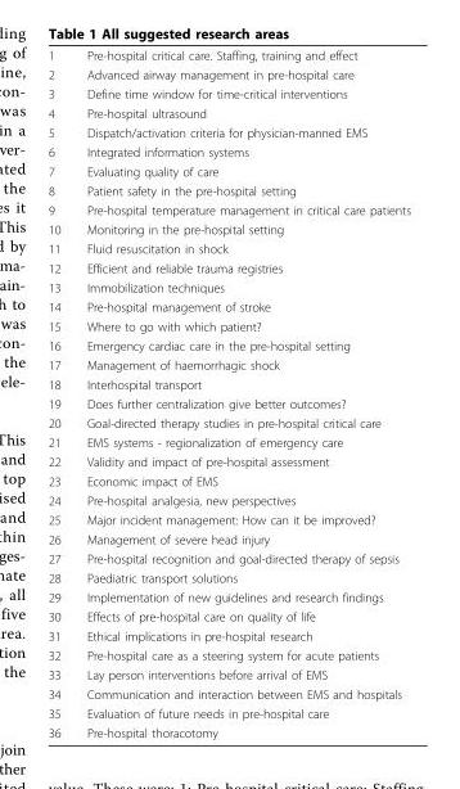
<table><tbody><tr><td>1</td><td>Pre-hospital critical care. Staffing, training and effect</td></tr><tr><td>2</td><td>Advanced airway management in pre-hospital care</td></tr><tr><td>3</td><td>Define time window for time-critical interventions</td></tr><tr><td>4</td><td>Pre-hospital ultrasound</td></tr><tr><td>5</td><td>Dispatch/activation criteria for physician-manned EMS</td></tr><tr><td>6</td><td>Integrated information systems</td></tr><tr><td>7</td><td>Evaluating quality of care</td></tr><tr><td>8</td><td>Patient safety in the pre-hospital setting</td></tr><tr><td>9</td><td>Pre-hospital temperature management in critical care patients</td></tr><tr><td>10</td><td>Monitoring in the pre-hospital setting</td></tr><tr><td>11</td><td>Fluid resuscitation in shock</td></tr><tr><td>12</td><td>Efficient and reliable trauma registries</td></tr><tr><td>13</td><td>Immobilization techniques</td></tr><tr><td>14</td><td>Pre-hospital management of stroke</td></tr><tr><td>15</td><td>Where to go with which patient?</td></tr><tr><td>16</td><td>Emergency cardiac care in the pre-hospital setting</td></tr><tr><td>17</td><td>Management of haemorrhagic shock</td></tr><tr><td>18</td><td>Interhospital transport</td></tr><tr><td>19</td><td>Does further centralization give better outcomes?</td></tr><tr><td>20</td><td>Goal-directed therapy studies in pre-hospital critical care</td></tr><tr><td>21</td><td>EMS systems - regionalization of emergency care</td></tr><tr><td>22</td><td>Validity and impact of pre-hospital assessment</td></tr><tr><td>23</td><td>Economic impact of EMS</td></tr><tr><td>24</td><td>Pre-hospital analgesia, new perspectives</td></tr><tr><td>25</td><td>Major incident management: How can it be improved?</td></tr><tr><td>26</td><td>Management of severe head injury</td></tr><tr><td>27</td><td>Pre-hospital recognition and goal-directed therapy of sepsis</td></tr><tr><td>28</td><td>Paediatric transport solutions</td></tr><tr><td>29</td><td>Implementation of new guidelines and research findings</td></tr><tr><td>30</td><td>Effects of pre-hospital care on quality of life</td></tr><tr><td>31</td><td>Ethical implications in pre-hospital research</td></tr><tr><td>32</td><td>Pre-hospital care as a steering system for acute patients</td></tr><tr><td>33</td><td>Lay person interventions before arrival of EMS</td></tr><tr><td>34</td><td>Communication and interaction between EMS and hospitals</td></tr><tr><td>35</td><td>Evaluation of future needs in pre-hospital care</td></tr><tr><td>36</td><td>Pre-hospital thoracotomy</td></tr></tbody></table>